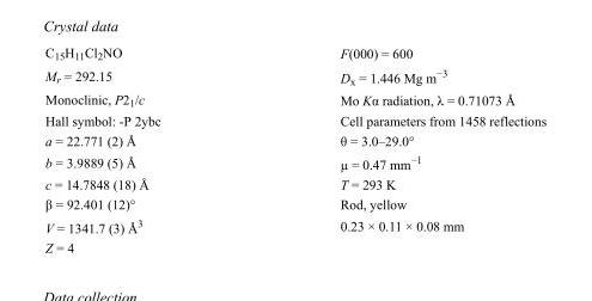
<table><tbody><tr><td>C<sub>15</sub>H<sub>11</sub>Cl<sub>2</sub>NO</td><td>F(000) = 600</td></tr><tr><td>M<sub>r</sub> = 292.15</td><td>D<sub>x</sub> = 1.446 Mg m<sup>−3</sup></td></tr><tr><td>Monoclinic, P2<sub>1</sub>/c</td><td>Mo Kα radiation, λ = 0.71073 Å</td></tr><tr><td>Hall symbol: -P 2ybc</td><td>Cell parameters from 1458 reflections</td></tr><tr><td>a = 22.771 (2) Å</td><td>θ = 3.0–29.0°</td></tr><tr><td>b = 3.9889 (5) Å</td><td>µ = 0.47 mm<sup>−1</sup></td></tr><tr><td>c = 14.7848 (18) Å</td><td>T = 293 K</td></tr><tr><td>β = 92.401 (12)°</td><td>Rod, yellow</td></tr><tr><td>V = 1341.7 (3) Å<sup>3</sup></td><td>0.23 × 0.11 × 0.08 mm</td></tr><tr><td>Z = 4</td><td></td></tr></tbody></table>